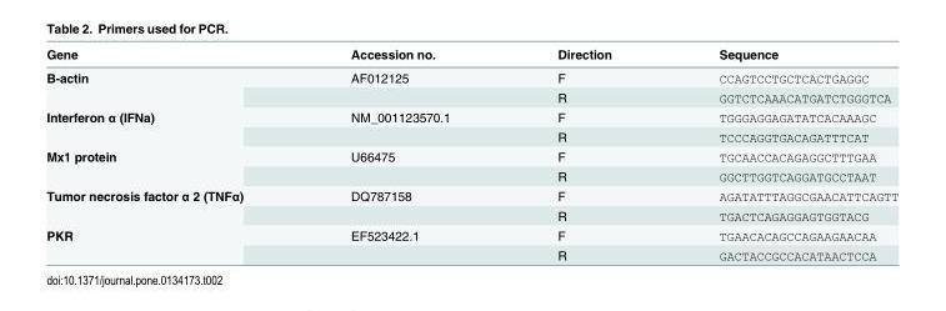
<table><thead><tr><td>Gene</td><td>Accession no.</td><td>Direction</td><td>Sequence</td></tr></thead><tbody><tr><td rowspan="2">B-actin</td><td>AF012125</td><td>F</td><td>CCAGTCCTGCTCACTGAGGC</td></tr><tr><td></td><td>R</td><td>GGTCTCAAACATGATCTGGGTCA</td></tr><tr><td rowspan="2">Interferon α (IFNa)</td><td>NM_001123570.1</td><td>F</td><td>TGGGAGGAGATATCACAAAGC</td></tr><tr><td></td><td>R</td><td>TCCCAGGTGACAGATTTCAT</td></tr><tr><td rowspan="2">Mx1 protein</td><td>U66475</td><td>F</td><td>TGCAACCACAGAGGCTTTGAA</td></tr><tr><td></td><td>R</td><td>GGCTTGGTCAGGATGCCTAAT</td></tr><tr><td rowspan="2">Tumor necrosis factor α 2 (TNFα)</td><td>DQ787158</td><td>F</td><td>AGATATTTAGGCGAACATTCAGTT</td></tr><tr><td></td><td>R</td><td>TGACTCAGAGGAGTGGTACG</td></tr><tr><td rowspan="2">PKR</td><td>EF523422.1</td><td>F</td><td>TGAACACAGCCAGAAGAACAA</td></tr><tr><td></td><td>R</td><td>GACTACCGCCACATAACTCCA</td></tr></tbody></table>